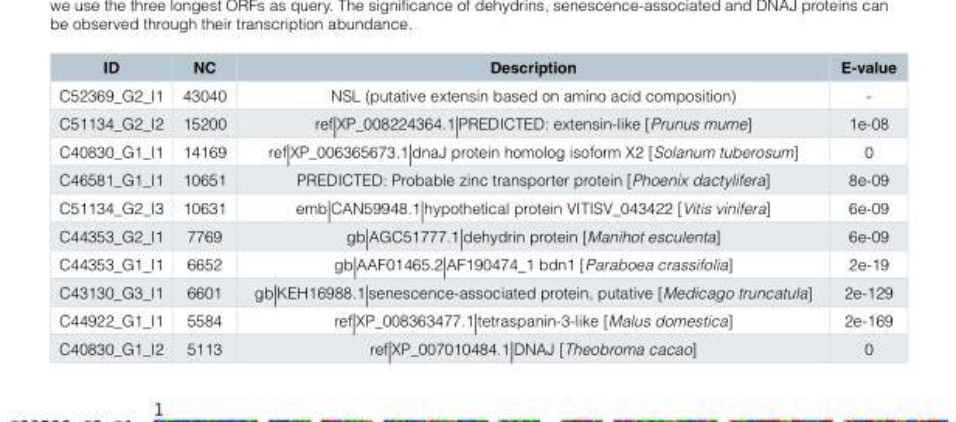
<table><thead><tr><td>ID</td><td>NC</td><td>Description</td><td>E-value</td></tr></thead><tbody><tr><td>C52369_G2_I1</td><td>43040</td><td>NSL (putative extensin based on amino acid composition)</td><td>-</td></tr><tr><td>C51134_G2_I2</td><td>15200</td><td>ref|XP_008224364.1|PREDICTED: extensin-like [Prunus mume]</td><td>1e-08</td></tr><tr><td>C40830_G1_I1</td><td>14169</td><td>ref|XP_006365673.1|dnaJ protein homolog isoform X2 [Solanum tuberosum]</td><td>0</td></tr><tr><td>C46581_G1_I1</td><td>10651</td><td>PREDICTED: Probable zinc transporter protein [Phoenix dactylifera]</td><td>8e-09</td></tr><tr><td>C51134_G2_I3</td><td>10631</td><td>emb|CAN59948.1|hypothetical protein VITISV_043422 [Vitis vinifera]</td><td>6e-09</td></tr><tr><td>C44353_G2_I1</td><td>7769</td><td>gb|AGC51777.1|dehydrin protein [Manihot esculenta]</td><td>6e-09</td></tr><tr><td>C44353_G1_I1</td><td>6652</td><td>gb|AAF01465.2|AF190474_1 bdn1 [Paraboea crassifolia]</td><td>2e-19</td></tr><tr><td>C43130_G3_I1</td><td>6601</td><td>gb|KEH16988.1|senescence-associated protein, putative [Medicago truncatula]</td><td>2e-129</td></tr><tr><td>C44922_G1_I1</td><td>5584</td><td>ref|XP_008363477.1|tetraspanin-3-like [Malus domestica]</td><td>2e-169</td></tr><tr><td>C40830_G1_I2</td><td>5113</td><td>ref|XP_007010484.1|DNAJ [Theobroma cacao]</td><td>0</td></tr></tbody></table>